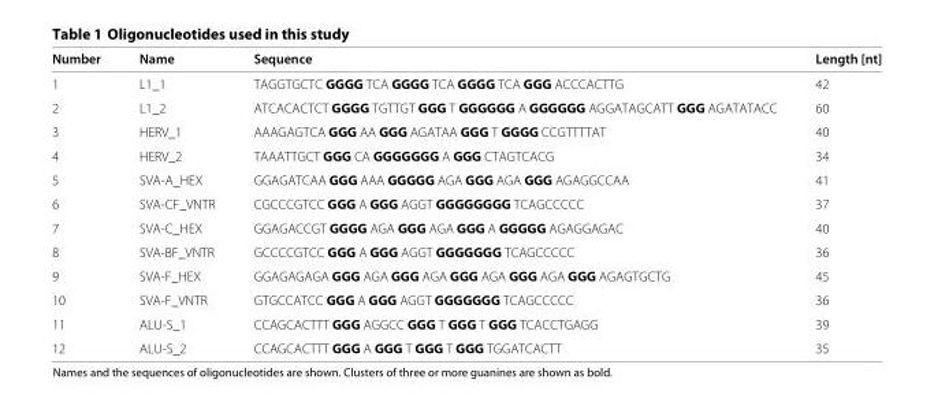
<table><thead><tr><td>Number</td><td>Name</td><td>Sequence</td><td>Length [nt]</td></tr></thead><tbody><tr><td>1</td><td>L1_1</td><td>TAGGTGCTC GGGG TCA GGGG TCA GGGG TCA GGG ACCCACTTG</td><td>42</td></tr><tr><td>2</td><td>L1_2</td><td>ATCACACTCT GGGG TGTTGT GGG T GGGGGG A GGGGGG AGGATAGCATT GGG AGATATACC</td><td>60</td></tr><tr><td>3</td><td>HERV_1</td><td>AAAGAGTCA GGG AA GGG AGATAA GGG T GGGG CCGTTTTAT</td><td>40</td></tr><tr><td>4</td><td>HERV_2</td><td>TAAATTGCT GGG CA GGGGGGG A GGG CTAGTCACG</td><td>34</td></tr><tr><td>5</td><td>SVA-A_HEX</td><td>GGAGATCAA GGG AAA GGGGG AGA GGG AGA GGG AGAGGCCAA</td><td>41</td></tr><tr><td>6</td><td>SVA-CF_VNTR</td><td>CGCCCGTCC GGG A GGG AGGT GGGGGGGG TCAGCCCCC</td><td>37</td></tr><tr><td>7</td><td>SVA-C_HEX</td><td>GGAGACCGT GGGG AGA GGG AGA GGG A GGGGG AGAGGAGAC</td><td>40</td></tr><tr><td>8</td><td>SVA-BF_VNTR</td><td>GCCCCGTCC GGG A GGG AGGT GGGGGGG TCAGCCCCC</td><td>36</td></tr><tr><td>9</td><td>SVA-F_HEX</td><td>GGAGAGAGA GGG AGA GGG AGA GGG AGA GGG AGA GGG AGAGTGCTG</td><td>45</td></tr><tr><td>10</td><td>SVA-F_VNTR</td><td>GTGCCATCC GGG A GGG AGGT GGGGGGG TCAGCCCCC</td><td>36</td></tr><tr><td>11</td><td>ALU-S_1</td><td>CCAGCACTTT GGG AGGCC GGG T GGG T GGG TCACCTGAGG</td><td>39</td></tr><tr><td>12</td><td>ALU-S_2</td><td>CCAGCACTTT GGG A GGG T GGG T GGG TGGATCACTT</td><td>35</td></tr></tbody></table>